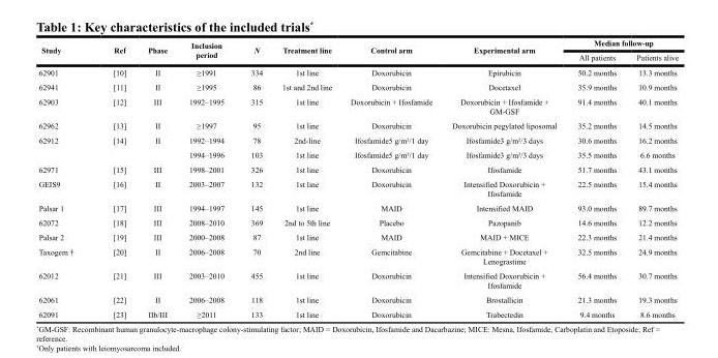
<table><thead><tr><td rowspan="2">Study</td><td rowspan="2">Ref</td><td rowspan="2">Phase</td><td rowspan="2">Inclusion period</td><td rowspan="2">N</td><td rowspan="2">Treatment line</td><td rowspan="2">Control arm</td><td rowspan="2">Experimental arm</td><td colspan="2">Median follow-up</td></tr><tr><td>All patients</td><td>Patients alive</td></tr></thead><tbody><tr><td>62901</td><td>[10]</td><td>II</td><td>≥1991</td><td>334</td><td>1st line</td><td>Doxorubicin</td><td>Epirubicin</td><td>50.2 months</td><td>13.3 months</td></tr><tr><td>62941</td><td>[11]</td><td>II</td><td>≥1995</td><td>86</td><td>1st and 2nd line</td><td>Doxorubicin</td><td>Docetaxel</td><td>35.9 months</td><td>10.9 months</td></tr><tr><td>62903</td><td>[12]</td><td>III</td><td>1992–1995</td><td>315</td><td>1st line</td><td>Doxorubicin + Ifosfamide</td><td>Doxorubicin + Ifosfamide + GM-GSF</td><td>91.4 months</td><td>40.1 months</td></tr><tr><td>62962</td><td>[13]</td><td>II</td><td>≥1997</td><td>95</td><td>1st line</td><td>Doxorubicin</td><td>Doxorubicin pegylated liposomal</td><td>35.2 months</td><td>14.5 months</td></tr><tr><td rowspan="2">62912</td><td>[14]</td><td>II</td><td>1992–1994</td><td>78</td><td>2nd-line</td><td>Ifosfamide5 g/m²/1 day</td><td>Ifosfamide3 g/m²/3 days</td><td>30.6 months</td><td>16.2 months</td></tr><tr><td></td><td></td><td>1994–1996</td><td>103</td><td>1st line</td><td>Ifosfamide5 g/m²/1 day</td><td>Ifosfamide3 g/m²/3 days</td><td>35.5 months</td><td>6.6 months</td></tr><tr><td>62971</td><td>[15]</td><td>III</td><td>1998–2001</td><td>326</td><td>1st line</td><td>Doxorubicin</td><td>Ifosfamide</td><td>51.7 months</td><td>43.1 months</td></tr><tr><td>GEIS9</td><td>[16]</td><td>II</td><td>2003–2007</td><td>132</td><td>1st line</td><td>Doxorubicin</td><td>Intensified Doxorubicin + Ifosfamide</td><td>22.5 months</td><td>15.4 months</td></tr><tr><td>Palsar 1</td><td>[17]</td><td>III</td><td>1994–1997</td><td>145</td><td>1st line</td><td>MAID</td><td>Intensified MAID</td><td>93.0 months</td><td>89.7 months</td></tr><tr><td>62072</td><td>[18]</td><td>III</td><td>2008–2010</td><td>369</td><td>2nd to 5th line</td><td>Placebo</td><td>Pazopanib</td><td>14.6 months</td><td>12.2 months</td></tr><tr><td>Palsar 2</td><td>[19]</td><td>III</td><td>2000–2008</td><td>87</td><td>1st line</td><td>MAID</td><td>MAID + MICE</td><td>22.3 months</td><td>21.4 months</td></tr><tr><td>Taxogem †</td><td>[20]</td><td>II</td><td>2006–2008</td><td>70</td><td>2nd line</td><td>Gemcitabine</td><td>Gemcitabine + Docetaxel + Lenograstime</td><td>32.5 months</td><td>24.9 months</td></tr><tr><td>62012</td><td>[21]</td><td>III</td><td>2003–2010</td><td>455</td><td>1st line</td><td>Doxorubicin</td><td>Intensified Doxorubicin + Ifosfamide</td><td>56.4 months</td><td>30.7 months</td></tr><tr><td>62061</td><td>[22]</td><td>II</td><td>2006–2008</td><td>118</td><td>1st line</td><td>Doxorubicin</td><td>Brostallicin</td><td>21.3 months</td><td>19.3 months</td></tr><tr><td>62091</td><td>[23]</td><td>IIb/III</td><td>≥2011</td><td>133</td><td>1st line</td><td>Doxorubicin</td><td>Trabectedin</td><td>9.4 months</td><td>8.6 months</td></tr></tbody></table>